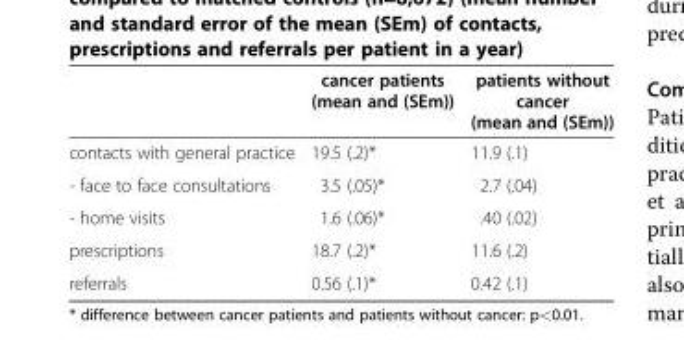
<table><thead><tr><td></td><td>cancer patients (mean and (SEm))</td><td>patients without cancer (mean and (SEm))</td></tr></thead><tbody><tr><td>contacts with general practice</td><td>19.5 (.2)*</td><td>11.9 (.1)</td></tr><tr><td>- face to face consultations</td><td>3.5 (.05)*</td><td>2.7 (.04)</td></tr><tr><td>- home visits</td><td>1.6 (.06)*</td><td>.40 (.02)</td></tr><tr><td>prescriptions</td><td>18.7 (.2)*</td><td>11.6 (.2)</td></tr><tr><td>referrals</td><td>0.56 (.1)*</td><td>0.42 (.1)</td></tr></tbody></table>